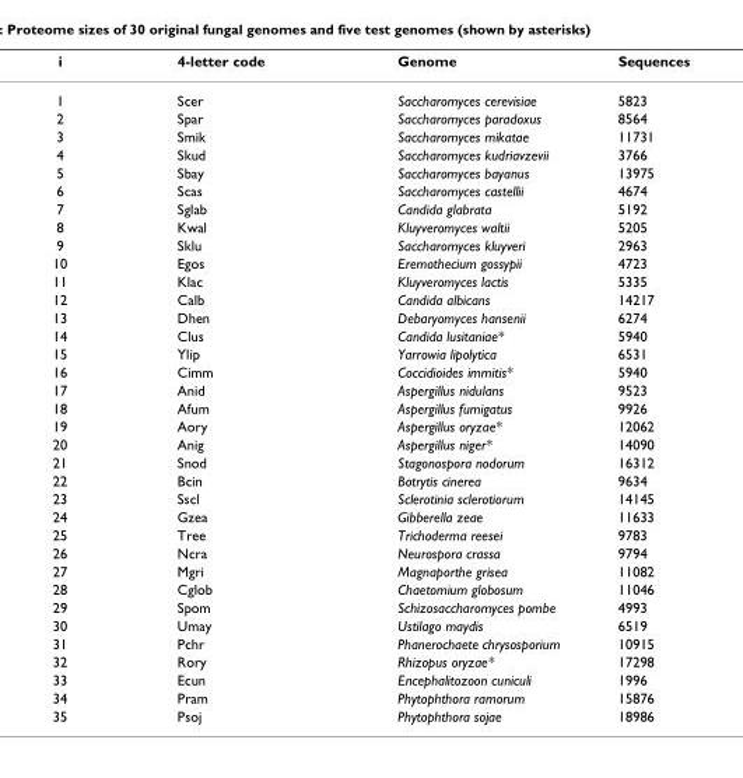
<table><thead><tr><td>i</td><td>4-letter code</td><td>Genome</td><td>Sequences</td></tr></thead><tbody><tr><td>1</td><td>Scer</td><td>Saccharomyces cerevisiae</td><td>5823</td></tr><tr><td>2</td><td>Spar</td><td>Saccharomyces paradoxus</td><td>8564</td></tr><tr><td>3</td><td>Smik</td><td>Saccharomyces mikatae</td><td>11731</td></tr><tr><td>4</td><td>Skud</td><td>Saccharomyces kudriavzevii</td><td>3766</td></tr><tr><td>5</td><td>Sbay</td><td>Saccharomyces bayanus</td><td>13975</td></tr><tr><td>6</td><td>Scas</td><td>Saccharomyces castellii</td><td>4674</td></tr><tr><td>7</td><td>Sglab</td><td>Candida glabrata</td><td>5192</td></tr><tr><td>8</td><td>Kwal</td><td>Kluyveromyces waltii</td><td>5205</td></tr><tr><td>9</td><td>Sklu</td><td>Saccharomyces kluyveri</td><td>2963</td></tr><tr><td>10</td><td>Egos</td><td>Eremothecium gossypii</td><td>4723</td></tr><tr><td>11</td><td>Klac</td><td>Kluyveromyces lactis</td><td>5335</td></tr><tr><td>12</td><td>Calb</td><td>Candida albicans</td><td>14217</td></tr><tr><td>13</td><td>Dhen</td><td>Debaryomyces hansenii</td><td>6274</td></tr><tr><td>14</td><td>Clus</td><td>Candida lusitaniae*</td><td>5940</td></tr><tr><td>15</td><td>Ylip</td><td>Yarrowia lipolytica</td><td>6531</td></tr><tr><td>16</td><td>Cimm</td><td>Coccidioides immitis*</td><td>5940</td></tr><tr><td>17</td><td>Anid</td><td>Aspergillus nidulans</td><td>9523</td></tr><tr><td>18</td><td>Afum</td><td>Aspergillus fumigatus</td><td>9926</td></tr><tr><td>19</td><td>Aory</td><td>Aspergillus oryzae*</td><td>12062</td></tr><tr><td>20</td><td>Anig</td><td>Aspergillus niger*</td><td>14090</td></tr><tr><td>21</td><td>Snod</td><td>Stagonospora nodorum</td><td>16312</td></tr><tr><td>22</td><td>Bcin</td><td>Botrytis cinerea</td><td>9634</td></tr><tr><td>23</td><td>Sscl</td><td>Sclerotinia sclerotiorum</td><td>14145</td></tr><tr><td>24</td><td>Gzea</td><td>Gibberella zeae</td><td>11633</td></tr><tr><td>25</td><td>Tree</td><td>Trichoderma reesei</td><td>9783</td></tr><tr><td>26</td><td>Ncra</td><td>Neurospora crassa</td><td>9794</td></tr><tr><td>27</td><td>Mgri</td><td>Magnaporthe grisea</td><td>11082</td></tr><tr><td>28</td><td>Cglob</td><td>Chaetomium globosum</td><td>11046</td></tr><tr><td>29</td><td>Spom</td><td>Schizosaccharomyces pombe</td><td>4993</td></tr><tr><td>30</td><td>Umay</td><td>Ustilago maydis</td><td>6519</td></tr><tr><td>31</td><td>Pchr</td><td>Phanerochaete chrysosporium</td><td>10915</td></tr><tr><td>32</td><td>Rory</td><td>Rhizopus oryzae*</td><td>17298</td></tr><tr><td>33</td><td>Ecun</td><td>Encephalitozoon cuniculi</td><td>1996</td></tr><tr><td>34</td><td>Pram</td><td>Phytophthora ramorum</td><td>15876</td></tr><tr><td>35</td><td>Psoj</td><td>Phytophthora sojae</td><td>18986</td></tr></tbody></table>